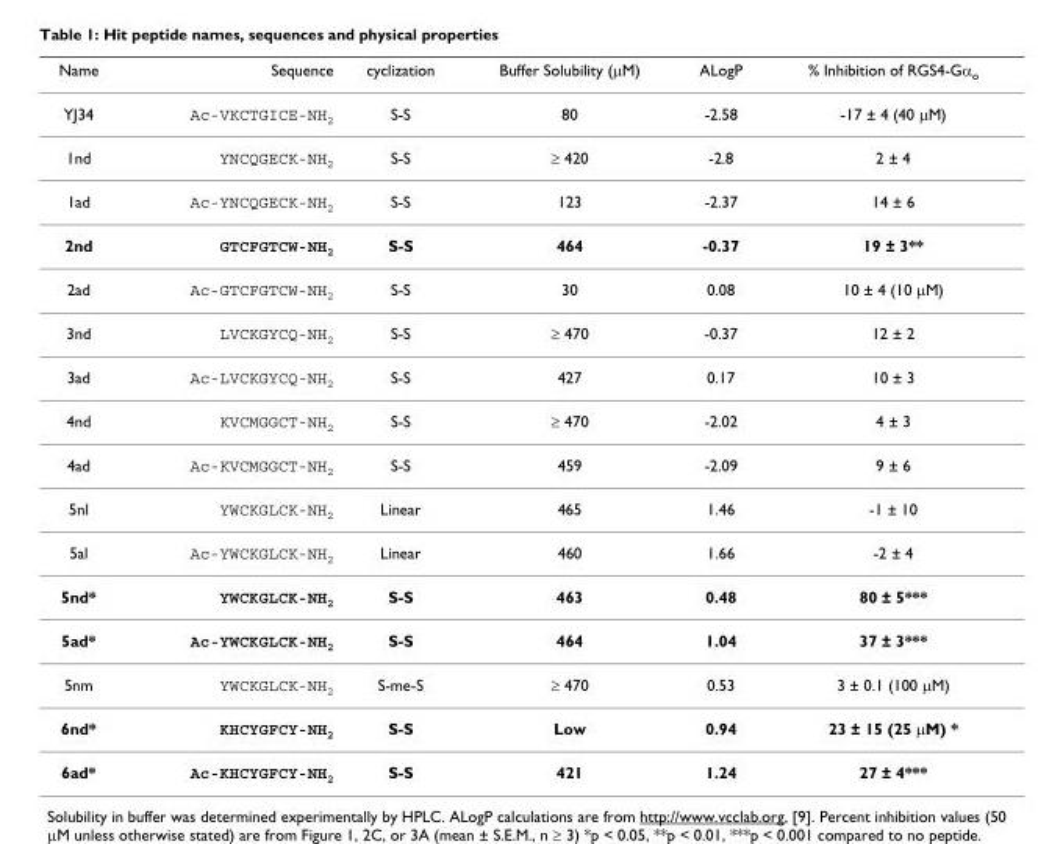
<table><thead><tr><td>Name</td><td>Sequence</td><td>cyclization</td><td>Buffer Solubility (μM)</td><td>ALogP</td><td>% Inhibition of RGS4-Gα<sub>o</sub></td></tr></thead><tbody><tr><td>YJ34</td><td>Ac-VKCTGICE-NH<sub>2</sub></td><td>S-S</td><td>80</td><td>-2.58</td><td>-17 ± 4 (40 μM)</td></tr><tr><td>1nd</td><td>YNCQGECK-NH<sub>2</sub></td><td>S-S</td><td>≥ 420</td><td>-2.8</td><td>2 ± 4</td></tr><tr><td>1ad</td><td>Ac-YNCQGECK-NH<sub>2</sub></td><td>S-S</td><td>123</td><td>-2.37</td><td>14 ± 6</td></tr><tr><td>2nd</td><td>GTCFGTCW-NH<sub>2</sub></td><td>S-S</td><td>464</td><td>-0.37</td><td>19 ± 3**</td></tr><tr><td>2ad</td><td>Ac-GTCFGTCW-NH<sub>2</sub></td><td>S-S</td><td>30</td><td>0.08</td><td>10 ± 4 (10 μM)</td></tr><tr><td>3nd</td><td>LVCKGYCQ-NH<sub>2</sub></td><td>S-S</td><td>≥ 470</td><td>-0.37</td><td>12 ± 2</td></tr><tr><td>3ad</td><td>Ac-LVCKGYCQ-NH<sub>2</sub></td><td>S-S</td><td>427</td><td>0.17</td><td>10 ± 3</td></tr><tr><td>4nd</td><td>KVCMGGCT-NH<sub>2</sub></td><td>S-S</td><td>≥ 470</td><td>-2.02</td><td>4 ± 3</td></tr><tr><td>4ad</td><td>Ac-KVCMGGCT-NH<sub>2</sub></td><td>S-S</td><td>459</td><td>-2.09</td><td>9 ± 6</td></tr><tr><td>5nl</td><td>YWCKGLCK-NH<sub>2</sub></td><td>Linear</td><td>465</td><td>1.46</td><td>-1 ± 10</td></tr><tr><td>5al</td><td>Ac-YWCKGLCK-NH<sub>2</sub></td><td>Linear</td><td>460</td><td>1.66</td><td>-2 ± 4</td></tr><tr><td>5nd*</td><td>YWCKGLCK-NH<sub>2</sub></td><td>S-S</td><td>463</td><td>0.48</td><td>80 ± 5***</td></tr><tr><td>5ad*</td><td>Ac-YWCKGLCK-NH<sub>2</sub></td><td>S-S</td><td>464</td><td>1.04</td><td>37 ± 3***</td></tr><tr><td>5nm</td><td>YWCKGLCK-NH<sub>2</sub></td><td>S-me-S</td><td>≥ 470</td><td>0.53</td><td>3 ± 0.1 (100 μM)</td></tr><tr><td>6nd*</td><td>KHCYGFCY-NH<sub>2</sub></td><td>S-S</td><td>Low</td><td>0.94</td><td>23 ± 15 (25 μM) *</td></tr><tr><td>6ad*</td><td>Ac-KHCYGFCY-NH<sub>2</sub></td><td>S-S</td><td>421</td><td>1.24</td><td>27 ± 4***</td></tr></tbody></table>